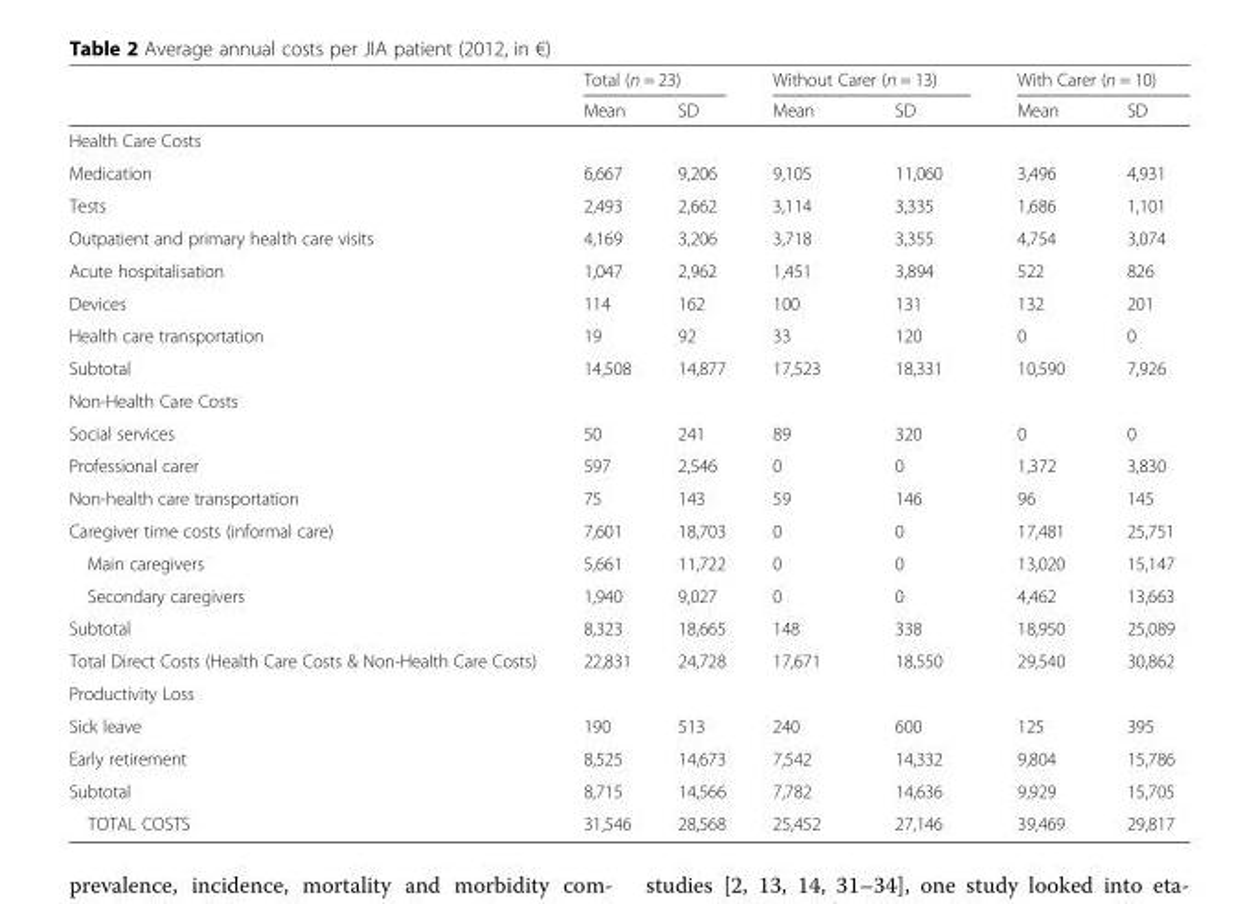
<table><thead><tr><td rowspan="2"></td><td colspan="2">Total (n = 23)</td><td colspan="2">Without Carer (n = 13)</td><td colspan="2">With Carer (n = 10)</td></tr><tr><td>Mean</td><td>SD</td><td>Mean</td><td>SD</td><td>Mean</td><td>SD</td></tr></thead><tbody><tr><td colspan="7">Health Care Costs</td></tr><tr><td>Medication</td><td>6,667</td><td>9,206</td><td>9,105</td><td>11,060</td><td>3,496</td><td>4,931</td></tr><tr><td>Tests</td><td>2,493</td><td>2,662</td><td>3,114</td><td>3,335</td><td>1,686</td><td>1,101</td></tr><tr><td>Outpatient and primary health care visits</td><td>4,169</td><td>3,206</td><td>3,718</td><td>3,355</td><td>4,754</td><td>3,074</td></tr><tr><td>Acute hospitalisation</td><td>1,047</td><td>2,962</td><td>1,451</td><td>3,894</td><td>522</td><td>826</td></tr><tr><td>Devices</td><td>114</td><td>162</td><td>100</td><td>131</td><td>132</td><td>201</td></tr><tr><td>Health care transportation</td><td>19</td><td>92</td><td>33</td><td>120</td><td>0</td><td>0</td></tr><tr><td>Subtotal</td><td>14,508</td><td>14,877</td><td>17,523</td><td>18,331</td><td>10,590</td><td>7,926</td></tr><tr><td colspan="7">Non-Health Care Costs</td></tr><tr><td>Social services</td><td>50</td><td>241</td><td>89</td><td>320</td><td>0</td><td>0</td></tr><tr><td>Professional carer</td><td>597</td><td>2,546</td><td>0</td><td>0</td><td>1,372</td><td>3,830</td></tr><tr><td>Non-health care transportation</td><td>75</td><td>143</td><td>59</td><td>146</td><td>96</td><td>145</td></tr><tr><td>Caregiver time costs (informal care)</td><td>7,601</td><td>18,703</td><td>0</td><td>0</td><td>17,481</td><td>25,751</td></tr><tr><td>Main caregivers</td><td>5,661</td><td>11,722</td><td>0</td><td>0</td><td>13,020</td><td>15,147</td></tr><tr><td>Secondary caregivers</td><td>1,940</td><td>9,027</td><td>0</td><td>0</td><td>4,462</td><td>13,663</td></tr><tr><td>Subtotal</td><td>8,323</td><td>18,665</td><td>148</td><td>338</td><td>18,950</td><td>25,089</td></tr><tr><td>Total Direct Costs (Health Care Costs &amp; Non-Health Care Costs)</td><td>22,831</td><td>24,728</td><td>17,671</td><td>18,550</td><td>29,540</td><td>30,862</td></tr><tr><td colspan="7">Productivity Loss</td></tr><tr><td>Sick leave</td><td>190</td><td>513</td><td>240</td><td>600</td><td>125</td><td>395</td></tr><tr><td>Early retirement</td><td>8,525</td><td>14,673</td><td>7,542</td><td>14,332</td><td>9,804</td><td>15,786</td></tr><tr><td>Subtotal</td><td>8,715</td><td>14,566</td><td>7,782</td><td>14,636</td><td>9,929</td><td>15,705</td></tr><tr><td>TOTAL COSTS</td><td>31,546</td><td>28,568</td><td>25,452</td><td>27,146</td><td>39,469</td><td>29,817</td></tr></tbody></table>